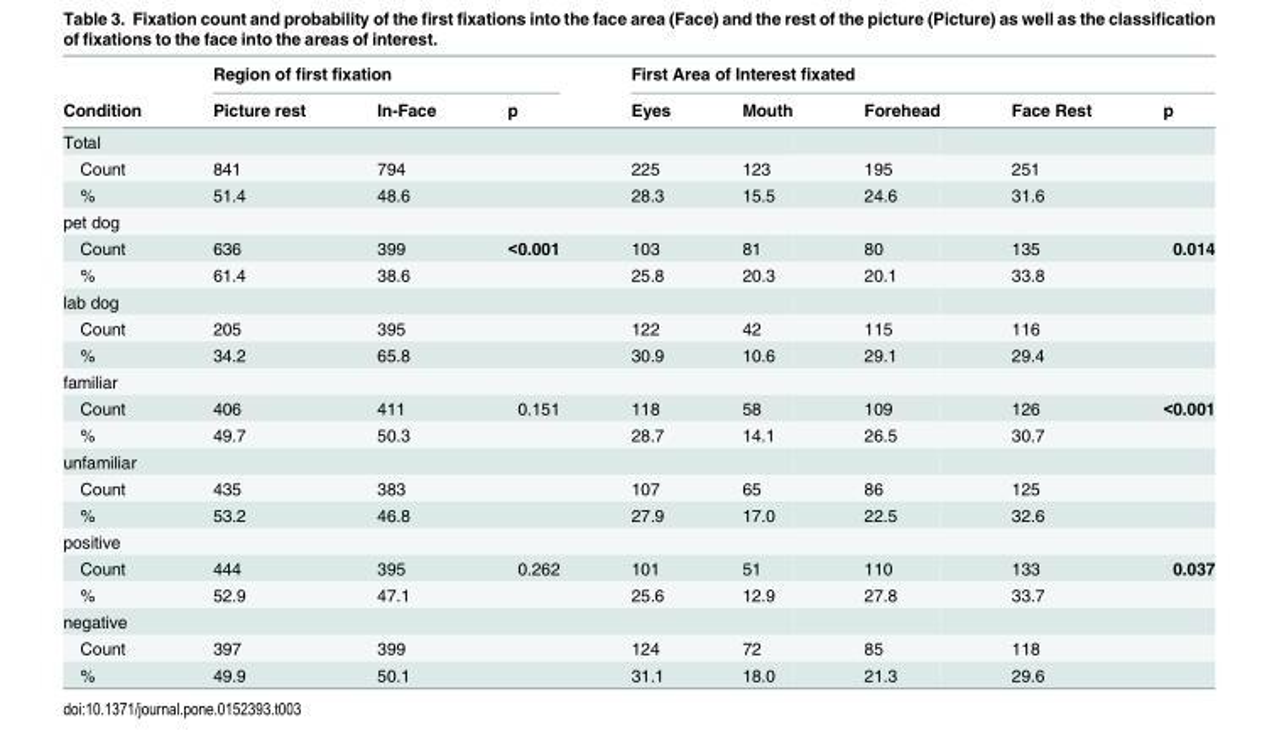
<table><thead><tr><td rowspan="2">Condition</td><td colspan="3">Region of first fixation</td><td colspan="5">First Area of Interest fixated</td></tr><tr><td>Picture rest</td><td>In-Face</td><td>p</td><td>Eyes</td><td>Mouth</td><td>Forehead</td><td>Face Rest</td><td>p</td></tr></thead><tbody><tr><td colspan="9">Total</td></tr><tr><td>Count</td><td>841</td><td>794</td><td></td><td>225</td><td>123</td><td>195</td><td>251</td><td></td></tr><tr><td>%</td><td>51.4</td><td>48.6</td><td></td><td>28.3</td><td>15.5</td><td>24.6</td><td>31.6</td><td></td></tr><tr><td colspan="9">pet dog</td></tr><tr><td>Count</td><td>636</td><td>399</td><td>&lt;0.001</td><td>103</td><td>81</td><td>80</td><td>135</td><td>0.014</td></tr><tr><td>%</td><td>61.4</td><td>38.6</td><td></td><td>25.8</td><td>20.3</td><td>20.1</td><td>33.8</td><td></td></tr><tr><td colspan="9">lab dog</td></tr><tr><td>Count</td><td>205</td><td>395</td><td></td><td>122</td><td>42</td><td>115</td><td>116</td><td></td></tr><tr><td>%</td><td>34.2</td><td>65.8</td><td></td><td>30.9</td><td>10.6</td><td>29.1</td><td>29.4</td><td></td></tr><tr><td colspan="9">familiar</td></tr><tr><td>Count</td><td>406</td><td>411</td><td>0.151</td><td>118</td><td>58</td><td>109</td><td>126</td><td>&lt;0.001</td></tr><tr><td>%</td><td>49.7</td><td>50.3</td><td></td><td>28.7</td><td>14.1</td><td>26.5</td><td>30.7</td><td></td></tr><tr><td colspan="9">unfamiliar</td></tr><tr><td>Count</td><td>435</td><td>383</td><td></td><td>107</td><td>65</td><td>86</td><td>125</td><td></td></tr><tr><td>%</td><td>53.2</td><td>46.8</td><td></td><td>27.9</td><td>17.0</td><td>22.5</td><td>32.6</td><td></td></tr><tr><td colspan="9">positive</td></tr><tr><td>Count</td><td>444</td><td>395</td><td>0.262</td><td>101</td><td>51</td><td>110</td><td>133</td><td>0.037</td></tr><tr><td>%</td><td>52.9</td><td>47.1</td><td></td><td>25.6</td><td>12.9</td><td>27.8</td><td>33.7</td><td></td></tr><tr><td colspan="9">negative</td></tr><tr><td>Count</td><td>397</td><td>399</td><td></td><td>124</td><td>72</td><td>85</td><td>118</td><td></td></tr><tr><td>%</td><td>49.9</td><td>50.1</td><td></td><td>31.1</td><td>18.0</td><td>21.3</td><td>29.6</td><td></td></tr></tbody></table>